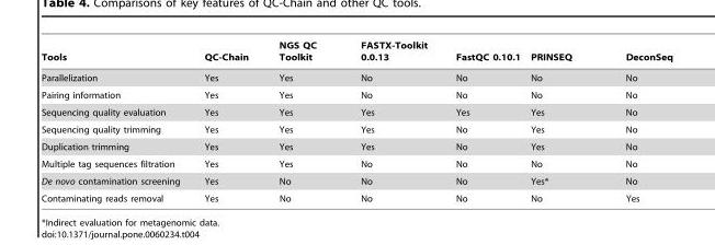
<table><thead><tr><td>Tools</td><td>QC-Chain</td><td>NGS QC Toolkit</td><td>FASTX-Toolkit 0.0.13</td><td>FastQC 0.10.1</td><td>PRINSEQ</td><td>DeconSeq</td></tr></thead><tbody><tr><td>Parallelization</td><td>Yes</td><td>Yes</td><td>No</td><td>No</td><td>No</td><td>No</td></tr><tr><td>Pairing information</td><td>Yes</td><td>Yes</td><td>No</td><td>No</td><td>No</td><td>No</td></tr><tr><td>Sequencing quality evaluation</td><td>Yes</td><td>Yes</td><td>Yes</td><td>Yes</td><td>Yes</td><td>No</td></tr><tr><td>Sequencing quality trimming</td><td>Yes</td><td>Yes</td><td>Yes</td><td>No</td><td>Yes</td><td>No</td></tr><tr><td>Duplication trimming</td><td>Yes</td><td>Yes</td><td>Yes</td><td>No</td><td>Yes</td><td>No</td></tr><tr><td>Multiple tag sequences filtration</td><td>Yes</td><td>Yes</td><td>No</td><td>No</td><td>No</td><td>No</td></tr><tr><td>De novo contamination screening</td><td>Yes</td><td>No</td><td>No</td><td>No</td><td>Yes*</td><td>No</td></tr><tr><td>Contaminating reads removal</td><td>Yes</td><td>No</td><td>No</td><td>No</td><td>No</td><td>Yes</td></tr></tbody></table>